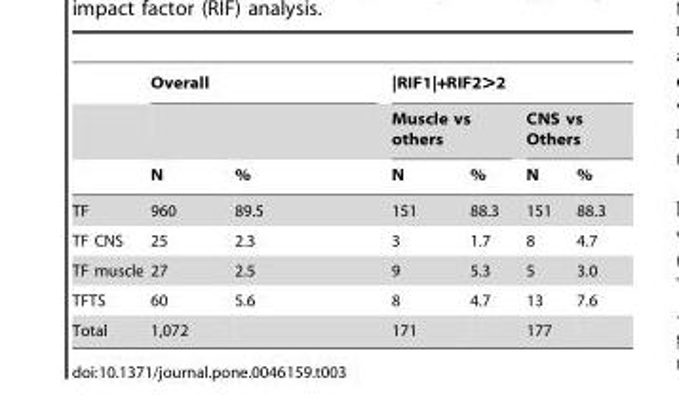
<table><thead><tr><td rowspan="3"></td><td colspan="2">Overall</td><td colspan="4">|RIF1|+RIF2&gt;2</td></tr><tr><td rowspan="2">N</td><td rowspan="2">%</td><td colspan="2">Muscle vs others</td><td colspan="2">CNS vs Others</td></tr><tr><td>N</td><td>%</td><td>N</td><td>%</td></tr></thead><tbody><tr><td>TF</td><td>960</td><td>89.5</td><td>151</td><td>88.3</td><td>151</td><td>88.3</td></tr><tr><td>TF CNS</td><td>25</td><td>2.3</td><td>3</td><td>1.7</td><td>8</td><td>4.7</td></tr><tr><td>TF muscle</td><td>27</td><td>2.5</td><td>9</td><td>5.3</td><td>5</td><td>3.0</td></tr><tr><td>TFTS</td><td>60</td><td>5.6</td><td>8</td><td>4.7</td><td>13</td><td>7.6</td></tr><tr><td>Total</td><td>1,072</td><td></td><td>171</td><td></td><td>177</td><td></td></tr></tbody></table>